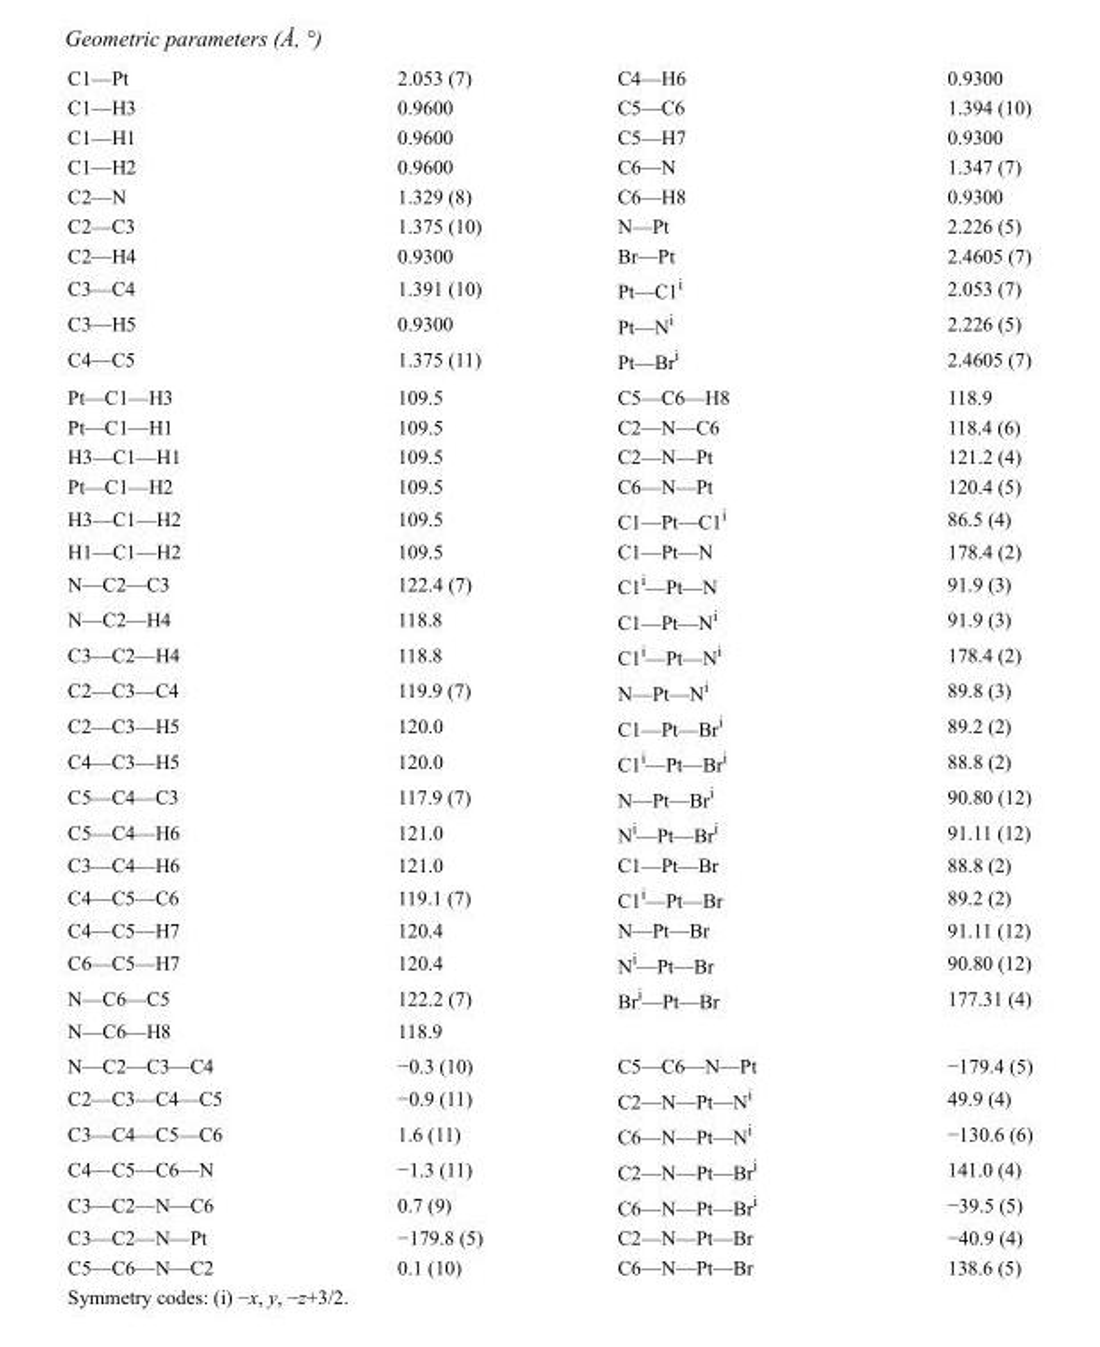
<table><tbody><tr><td>C1—Pt</td><td>2.053 (7)</td><td>C4—H6</td><td>0.9300</td></tr><tr><td>C1—H3</td><td>0.9600</td><td>C5—C6</td><td>1.394 (10)</td></tr><tr><td>C1—H1</td><td>0.9600</td><td>C5—H7</td><td>0.9300</td></tr><tr><td>C1—H2</td><td>0.9600</td><td>C6—N</td><td>1.347 (7)</td></tr><tr><td>C2—N</td><td>1.329 (8)</td><td>C6—H8</td><td>0.9300</td></tr><tr><td>C2—C3</td><td>1.375 (10)</td><td>N—Pt</td><td>2.226 (5)</td></tr><tr><td>C2—H4</td><td>0.9300</td><td>Br—Pt</td><td>2.4605 (7)</td></tr><tr><td>C3—C4</td><td>1.391 (10)</td><td>Pt—C1<sup>i</sup></td><td>2.053 (7)</td></tr><tr><td>C3—H5</td><td>0.9300</td><td>Pt—N<sup>i</sup></td><td>2.226 (5)</td></tr><tr><td>C4—C5</td><td>1.375 (11)</td><td>Pt—Br<sup>i</sup></td><td>2.4605 (7)</td></tr><tr><td>Pt—C1—H3</td><td>109.5</td><td>C5—C6—H8</td><td>118.9</td></tr><tr><td>Pt—C1—H1</td><td>109.5</td><td>C2—N—C6</td><td>118.4 (6)</td></tr><tr><td>H3—C1—H1</td><td>109.5</td><td>C2—N—Pt</td><td>121.2 (4)</td></tr><tr><td>Pt—C1—H2</td><td>109.5</td><td>C6—N—Pt</td><td>120.4 (5)</td></tr><tr><td>H3—C1—H2</td><td>109.5</td><td>C1—Pt—C1<sup>i</sup></td><td>86.5 (4)</td></tr><tr><td>H1—C1—H2</td><td>109.5</td><td>C1—Pt—N</td><td>178.4 (2)</td></tr><tr><td>N—C2—C3</td><td>122.4 (7)</td><td>C1<sup>i</sup>—Pt—N</td><td>91.9 (3)</td></tr><tr><td>N—C2—H4</td><td>118.8</td><td>C1—Pt—N<sup>i</sup></td><td>91.9 (3)</td></tr><tr><td>C3—C2—H4</td><td>118.8</td><td>C1<sup>i</sup>—Pt—N<sup>i</sup></td><td>178.4 (2)</td></tr><tr><td>C2—C3—C4</td><td>119.9 (7)</td><td>N—Pt—N<sup>i</sup></td><td>89.8 (3)</td></tr><tr><td>C2—C3—H5</td><td>120.0</td><td>C1—Pt—Br<sup>i</sup></td><td>89.2 (2)</td></tr><tr><td>C4—C3—H5</td><td>120.0</td><td>C1<sup>i</sup>—Pt—Br<sup>i</sup></td><td>88.8 (2)</td></tr><tr><td>C5—C4—C3</td><td>117.9 (7)</td><td>N—Pt—Br<sup>i</sup></td><td>90.80 (12)</td></tr><tr><td>C5—C4—H6</td><td>121.0</td><td>N<sup>i</sup>—Pt—Br<sup>i</sup></td><td>91.11 (12)</td></tr><tr><td>C3—C4—H6</td><td>121.0</td><td>C1—Pt—Br</td><td>88.8 (2)</td></tr><tr><td>C4—C5—C6</td><td>119.1 (7)</td><td>C1<sup>i</sup>—Pt—Br</td><td>89.2 (2)</td></tr><tr><td>C4—C5—H7</td><td>120.4</td><td>N—Pt—Br</td><td>91.11 (12)</td></tr><tr><td>C6—C5—H7</td><td>120.4</td><td>N<sup>i</sup>—Pt—Br</td><td>90.80 (12)</td></tr><tr><td>N—C6—C5</td><td>122.2 (7)</td><td>Br<sup>i</sup>—Pt—Br</td><td>177.31 (4)</td></tr><tr><td>N—C6—H8</td><td>118.9</td><td></td><td></td></tr><tr><td>N—C2—C3—C4</td><td>−0.3 (10)</td><td>C5—C6—N—Pt</td><td>−179.4 (5)</td></tr><tr><td>C2—C3—C4—C5</td><td>−0.9 (11)</td><td>C2—N—Pt—N<sup>i</sup></td><td>49.9 (4)</td></tr><tr><td>C3—C4—C5—C6</td><td>1.6 (11)</td><td>C6—N—Pt—N<sup>i</sup></td><td>−130.6 (6)</td></tr><tr><td>C4—C5—C6—N</td><td>−1.3 (11)</td><td>C2—N—Pt—Br<sup>i</sup></td><td>141.0 (4)</td></tr><tr><td>C3—C2—N—C6</td><td>0.7 (9)</td><td>C6—N—Pt—Br<sup>i</sup></td><td>−39.5 (5)</td></tr><tr><td>C3—C2—N—Pt</td><td>−179.8 (5)</td><td>C2—N—Pt—Br</td><td>−40.9 (4)</td></tr><tr><td>C5—C6—N—C2</td><td>0.1 (10)</td><td>C6—N—Pt—Br</td><td>138.6 (5)</td></tr></tbody></table>